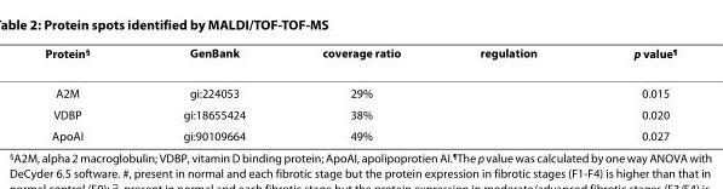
<table><thead><tr><td>Protein<sup>§</sup></td><td>GenBank</td><td>coverage ratio</td><td>regulation</td><td>p value<sup>¶</sup></td></tr></thead><tbody><tr><td>A2M</td><td>gi:224053</td><td>29%</td><td>↑</td><td>0.015</td></tr><tr><td>VDBP</td><td>gi:18655424</td><td>38%</td><td>↓</td><td>0.020</td></tr><tr><td>ApoAI</td><td>gi:90109664</td><td>49%</td><td>↓</td><td>0.027</td></tr></tbody></table>